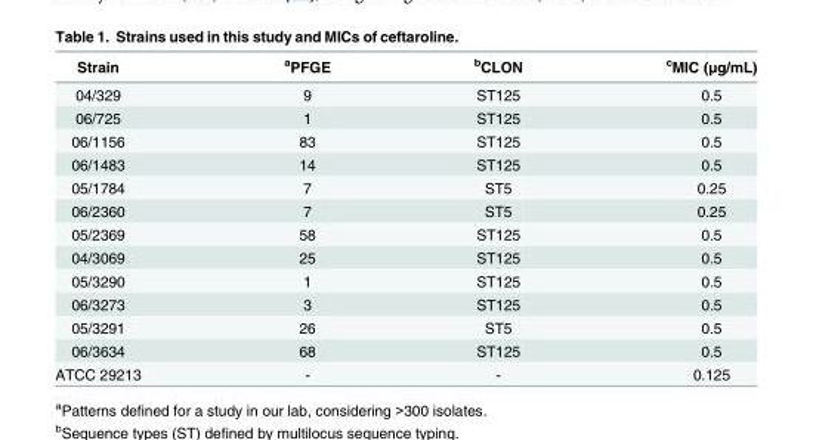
<table><thead><tr><td>Strain</td><td><sup>a</sup>PFGE</td><td><sup>b</sup>CLON</td><td><sup>c</sup>MIC (μg/mL)</td></tr></thead><tbody><tr><td>04/329</td><td>9</td><td>ST125</td><td>0.5</td></tr><tr><td>06/725</td><td>1</td><td>ST125</td><td>0.5</td></tr><tr><td>06/1156</td><td>83</td><td>ST125</td><td>0.5</td></tr><tr><td>06/1483</td><td>14</td><td>ST125</td><td>0.5</td></tr><tr><td>05/1784</td><td>7</td><td>ST5</td><td>0.25</td></tr><tr><td>06/2360</td><td>7</td><td>ST5</td><td>0.25</td></tr><tr><td>05/2369</td><td>58</td><td>ST125</td><td>0.5</td></tr><tr><td>04/3069</td><td>25</td><td>ST125</td><td>0.5</td></tr><tr><td>05/3290</td><td>1</td><td>ST125</td><td>0.5</td></tr><tr><td>06/3273</td><td>3</td><td>ST125</td><td>0.5</td></tr><tr><td>05/3291</td><td>26</td><td>ST5</td><td>0.5</td></tr><tr><td>06/3634</td><td>68</td><td>ST125</td><td>0.5</td></tr><tr><td>ATCC 29213</td><td>-</td><td>-</td><td>0.125</td></tr></tbody></table>